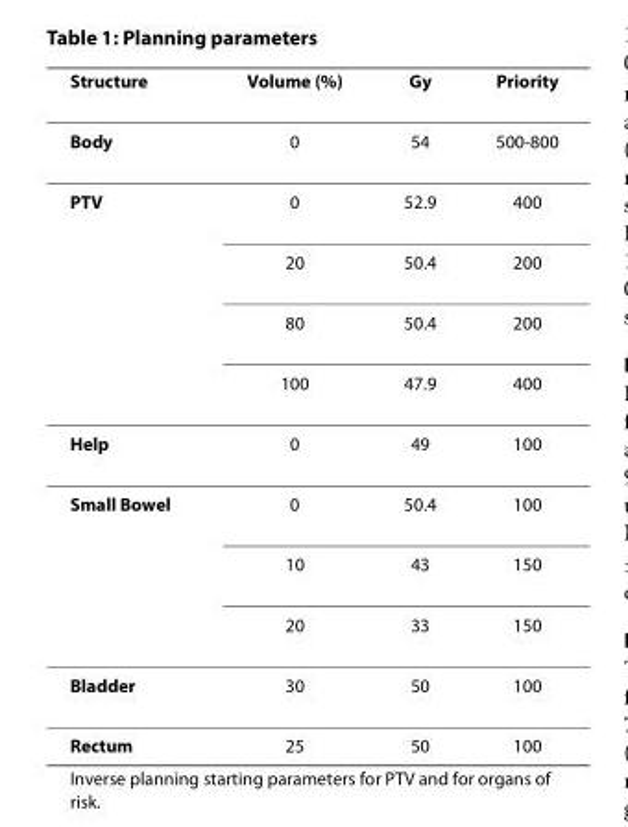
<table><thead><tr><td>Structure</td><td>Volume (%)</td><td>Gy</td><td>Priority</td></tr></thead><tbody><tr><td>Body</td><td>0</td><td>54</td><td>500-800</td></tr><tr><td rowspan="4">PTV</td><td>0</td><td>52.9</td><td>400</td></tr><tr><td>20</td><td>50.4</td><td>200</td></tr><tr><td>80</td><td>50.4</td><td>200</td></tr><tr><td>100</td><td>47.9</td><td>400</td></tr><tr><td>Help</td><td>0</td><td>49</td><td>100</td></tr><tr><td rowspan="3">Small Bowel</td><td>0</td><td>50.4</td><td>100</td></tr><tr><td>10</td><td>43</td><td>150</td></tr><tr><td>20</td><td>33</td><td>150</td></tr><tr><td>Bladder</td><td>30</td><td>50</td><td>100</td></tr><tr><td>Rectum</td><td>25</td><td>50</td><td>100</td></tr></tbody></table>